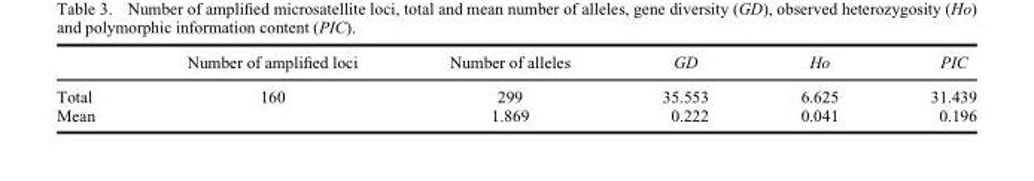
<table><thead><tr><td></td><td>Number of amplified loci</td><td>Number of alleles</td><td>GD</td><td>Ho</td><td>PIC</td></tr></thead><tbody><tr><td>Total</td><td>160</td><td>299</td><td>35.553</td><td>6.625</td><td>31.439</td></tr><tr><td>Mean</td><td></td><td>1.869</td><td>0.222</td><td>0.041</td><td>0.196</td></tr></tbody></table>